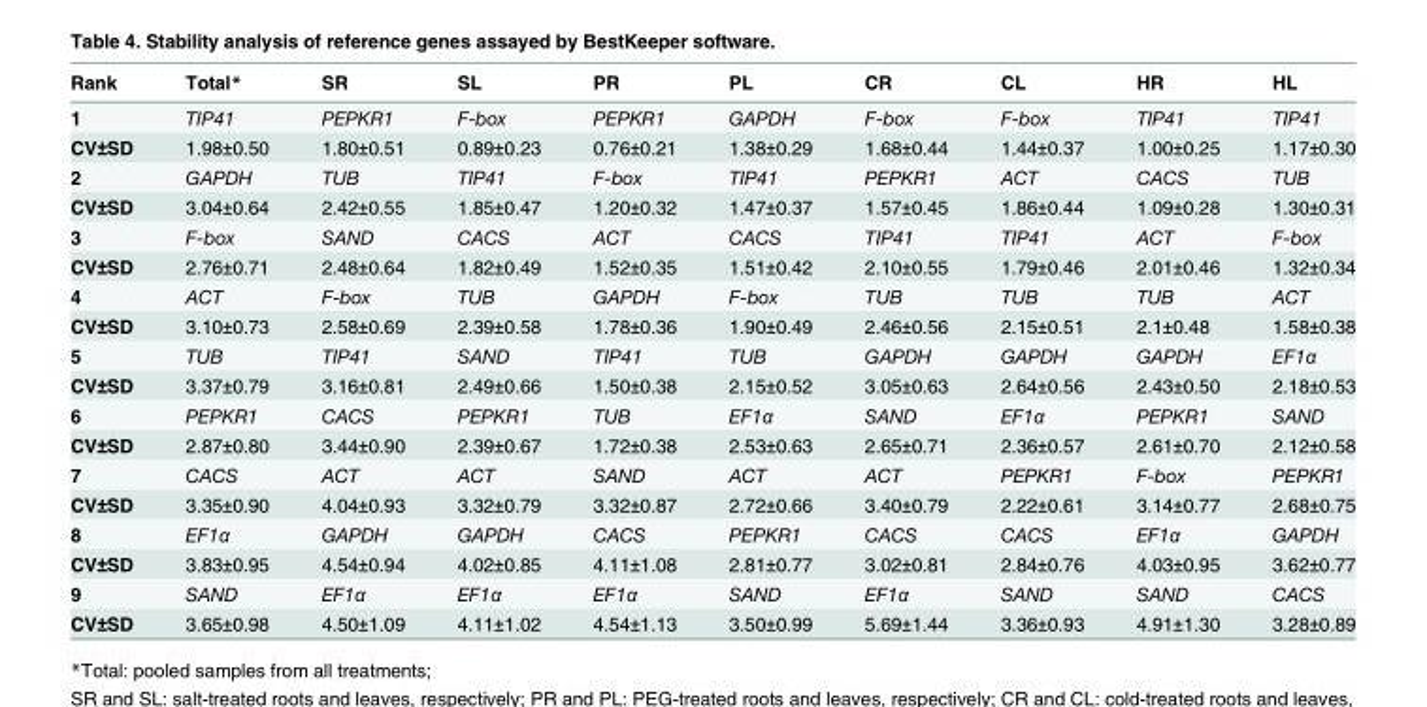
<table><thead><tr><td>Rank</td><td>Total*</td><td>SR</td><td>SL</td><td>PR</td><td>PL</td><td>CR</td><td>CL</td><td>HR</td><td>HL</td></tr></thead><tbody><tr><td>1</td><td>TIP41</td><td>PEPKR1</td><td>F-box</td><td>PEPKR1</td><td>GAPDH</td><td>F-box</td><td>F-box</td><td>TIP41</td><td>TIP41</td></tr><tr><td>CV±SD</td><td>1.98±0.50</td><td>1.80±0.51</td><td>0.89±0.23</td><td>0.76±0.21</td><td>1.38±0.29</td><td>1.68±0.44</td><td>1.44±0.37</td><td>1.00±0.25</td><td>1.17±0.30</td></tr><tr><td>2</td><td>GAPDH</td><td>TUB</td><td>TIP41</td><td>F-box</td><td>TIP41</td><td>PEPKR1</td><td>ACT</td><td>CACS</td><td>TUB</td></tr><tr><td>CV±SD</td><td>3.04±0.64</td><td>2.42±0.55</td><td>1.85±0.47</td><td>1.20±0.32</td><td>1.47±0.37</td><td>1.57±0.45</td><td>1.86±0.44</td><td>1.09±0.28</td><td>1.30±0.31</td></tr><tr><td>3</td><td>F-box</td><td>SAND</td><td>CACS</td><td>ACT</td><td>CACS</td><td>TIP41</td><td>TIP41</td><td>ACT</td><td>F-box</td></tr><tr><td>CV±SD</td><td>2.76±0.71</td><td>2.48±0.64</td><td>1.82±0.49</td><td>1.52±0.35</td><td>1.51±0.42</td><td>2.10±0.55</td><td>1.79±0.46</td><td>2.01±0.46</td><td>1.32±0.34</td></tr><tr><td>4</td><td>ACT</td><td>F-box</td><td>TUB</td><td>GAPDH</td><td>F-box</td><td>TUB</td><td>TUB</td><td>TUB</td><td>ACT</td></tr><tr><td>CV±SD</td><td>3.10±0.73</td><td>2.58±0.69</td><td>2.39±0.58</td><td>1.78±0.36</td><td>1.90±0.49</td><td>2.46±0.56</td><td>2.15±0.51</td><td>2.1±0.48</td><td>1.58±0.38</td></tr><tr><td>5</td><td>TUB</td><td>TIP41</td><td>SAND</td><td>TIP41</td><td>TUB</td><td>GAPDH</td><td>GAPDH</td><td>GAPDH</td><td>EF1α</td></tr><tr><td>CV±SD</td><td>3.37±0.79</td><td>3.16±0.81</td><td>2.49±0.66</td><td>1.50±0.38</td><td>2.15±0.52</td><td>3.05±0.63</td><td>2.64±0.56</td><td>2.43±0.50</td><td>2.18±0.53</td></tr><tr><td>6</td><td>PEPKR1</td><td>CACS</td><td>PEPKR1</td><td>TUB</td><td>EF1α</td><td>SAND</td><td>EF1α</td><td>PEPKR1</td><td>SAND</td></tr><tr><td>CV±SD</td><td>2.87±0.80</td><td>3.44±0.90</td><td>2.39±0.67</td><td>1.72±0.38</td><td>2.53±0.63</td><td>2.65±0.71</td><td>2.36±0.57</td><td>2.61±0.70</td><td>2.12±0.58</td></tr><tr><td>7</td><td>CACS</td><td>ACT</td><td>ACT</td><td>SAND</td><td>ACT</td><td>ACT</td><td>PEPKR1</td><td>F-box</td><td>PEPKR1</td></tr><tr><td>CV±SD</td><td>3.35±0.90</td><td>4.04±0.93</td><td>3.32±0.79</td><td>3.32±0.87</td><td>2.72±0.66</td><td>3.40±0.79</td><td>2.22±0.61</td><td>3.14±0.77</td><td>2.68±0.75</td></tr><tr><td>8</td><td>EF1α</td><td>GAPDH</td><td>GAPDH</td><td>CACS</td><td>PEPKR1</td><td>CACS</td><td>CACS</td><td>EF1α</td><td>GAPDH</td></tr><tr><td>CV±SD</td><td>3.83±0.95</td><td>4.54±0.94</td><td>4.02±0.85</td><td>4.11±1.08</td><td>2.81±0.77</td><td>3.02±0.81</td><td>2.84±0.76</td><td>4.03±0.95</td><td>3.62±0.77</td></tr><tr><td>9</td><td>SAND</td><td>EF1α</td><td>EF1α</td><td>EF1α</td><td>SAND</td><td>EF1α</td><td>SAND</td><td>SAND</td><td>CACS</td></tr><tr><td>CV±SD</td><td>3.65±0.98</td><td>4.50±1.09</td><td>4.11±1.02</td><td>4.54±1.13</td><td>3.50±0.99</td><td>5.69±1.44</td><td>3.36±0.93</td><td>4.91±1.30</td><td>3.28±0.89</td></tr></tbody></table>